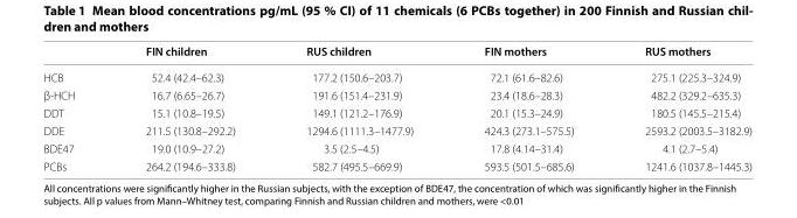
<table><thead><tr><td></td><td>FIN children</td><td>RUS children</td><td>FIN mothers</td><td>RUS mothers</td></tr></thead><tbody><tr><td>HCB</td><td>52.4 (42.4–62.3)</td><td>177.2 (150.6–203.7)</td><td>72.1 (61.6–82.6)</td><td>275.1 (225.3–324.9)</td></tr><tr><td>β‑HCH</td><td>16.7 (6.65–26.7)</td><td>191.6 (151.4–231.9)</td><td>23.4 (18.6–28.3)</td><td>482.2 (329.2–635.3)</td></tr><tr><td>DDT</td><td>15.1 (10.8–19.5)</td><td>149.1 (121.2–176.9)</td><td>20.1 (15.3–24.9)</td><td>180.5 (145.5–215.4)</td></tr><tr><td>DDE</td><td>211.5 (130.8–292.2)</td><td>1294.6 (1111.3–1477.9)</td><td>424.3 (273.1–575.5)</td><td>2593.2 (2003.5–3182.9)</td></tr><tr><td>BDE47</td><td>19.0 (10.9–27.2)</td><td>3.5 (2.5–4.5)</td><td>17.8 (4.14–31.4)</td><td>4.1 (2.7–5.4)</td></tr><tr><td>PCBs</td><td>264.2 (194.6–333.8)</td><td>582.7 (495.5–669.9)</td><td>593.5 (501.5–685.6)</td><td>1241.6 (1037.8–1445.3)</td></tr></tbody></table>